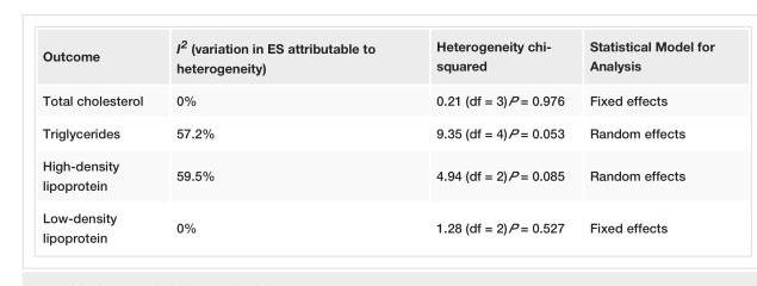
<table><tbody><tr><td>Outcome</td><td>I<sup>2</sup> (variation in ES attributable to heterogeneity)</td><td>Heterogeneity chi- squared</td><td>Statistical Model for Analysis</td></tr><tr><td>Total cholesterol</td><td>0%</td><td>0.21 (df = 3) P = 0.976</td><td>Fixed effects</td></tr><tr><td>Triglycerides</td><td>57.2%</td><td>9.35 (df = 4) P = 0.053</td><td>Random effects</td></tr><tr><td>High-density lipoprotein</td><td>59.5%</td><td>4.94 (df = 2) P = 0.085</td><td>Random effects</td></tr><tr><td>Low-density lipoprotein</td><td>0%</td><td>1.28 (df = 2) P = 0.527</td><td>Fixed effects</td></tr></tbody></table>